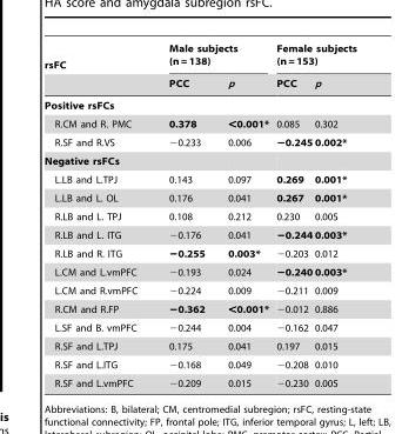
<table><thead><tr><td rowspan="2">rsFC</td><td colspan="2">Male subjects (n = 138)</td><td colspan="2">Female subjects (n = 153)</td></tr><tr><td>PCC</td><td>p</td><td>PCC</td><td>p</td></tr></thead><tbody><tr><td colspan="5">Positive rsFCs</td></tr><tr><td>R.CM and R. PMC</td><td>0.378</td><td>&lt;0.001*</td><td>0.085</td><td>0.302</td></tr><tr><td>R.SF and R.VS</td><td>−0.233</td><td>0.006</td><td>−0.245</td><td>0.002*</td></tr><tr><td colspan="5">Negative rsFCs</td></tr><tr><td>L.LB and L.TPJ</td><td>0.143</td><td>0.097</td><td>0.269</td><td>0.001*</td></tr><tr><td>L.LB and L. OL</td><td>0.176</td><td>0.041</td><td>0.267</td><td>0.001*</td></tr><tr><td>R.LB and L. TPJ</td><td>0.108</td><td>0.212</td><td>0.230</td><td>0.005</td></tr><tr><td>R.LB and L. ITG</td><td>−0.176</td><td>0.041</td><td>−0.244</td><td>0.003*</td></tr><tr><td>R.LB and R. ITG</td><td>−0.255</td><td>0.003*</td><td>−0.203</td><td>0.012</td></tr><tr><td>L.CM and L.vmPFC</td><td>−0.193</td><td>0.024</td><td>−0.240</td><td>0.003*</td></tr><tr><td>L.CM and R.vmPFC</td><td>−0.224</td><td>0.009</td><td>−0.211</td><td>0.009</td></tr><tr><td>R.CM and R.FP</td><td>−0.362</td><td>&lt;0.001*</td><td>−0.012</td><td>0.886</td></tr><tr><td>L.SF and B. vmPFC</td><td>−0.244</td><td>0.004</td><td>−0.162</td><td>0.047</td></tr><tr><td>R.SF and L.TPJ</td><td>0.175</td><td>0.041</td><td>0.197</td><td>0.015</td></tr><tr><td>R.SF and L.ITG</td><td>−0.168</td><td>0.049</td><td>−0.208</td><td>0.010</td></tr><tr><td>R.SF and L.vmPFC</td><td>−0.209</td><td>0.015</td><td>−0.230</td><td>0.005</td></tr></tbody></table>